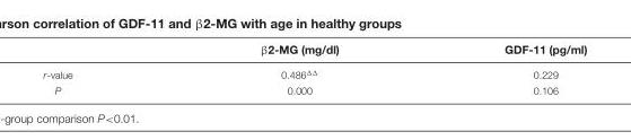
<table><thead><tr><td></td><td>β2-MG (mg/dl)</td><td>GDF-11 (pg/ml)</td></tr></thead><tbody><tr><td>r-value</td><td>0.486<sup>ΔΔ</sup></td><td>0.229</td></tr><tr><td>P</td><td>0.000</td><td>0.106</td></tr></tbody></table>